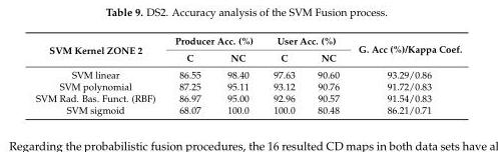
<table><thead><tr><td rowspan="2">SVM Kernel ZONE 2</td><td colspan="2">Producer Acc. (%)</td><td colspan="2">User Acc. (%)</td><td rowspan="2">G. Acc (%)/Kappa Coef.</td></tr><tr><td>C</td><td>NC</td><td>C</td><td>NC</td></tr></thead><tbody><tr><td>SVM linear</td><td>86.55</td><td>98.40</td><td>97.63</td><td>90.60</td><td>93.29/0.86</td></tr><tr><td>SVM polynomial</td><td>87.25</td><td>95.11</td><td>93.12</td><td>90.76</td><td>91.72/0.83</td></tr><tr><td>SVM Rad. Bas. Funct. (RBF)</td><td>86.97</td><td>95.00</td><td>92.96</td><td>90.57</td><td>91.54/0.83</td></tr><tr><td>SVM sigmoid</td><td>68.07</td><td>100.0</td><td>100.0</td><td>80.48</td><td>86.21/0.71</td></tr></tbody></table>